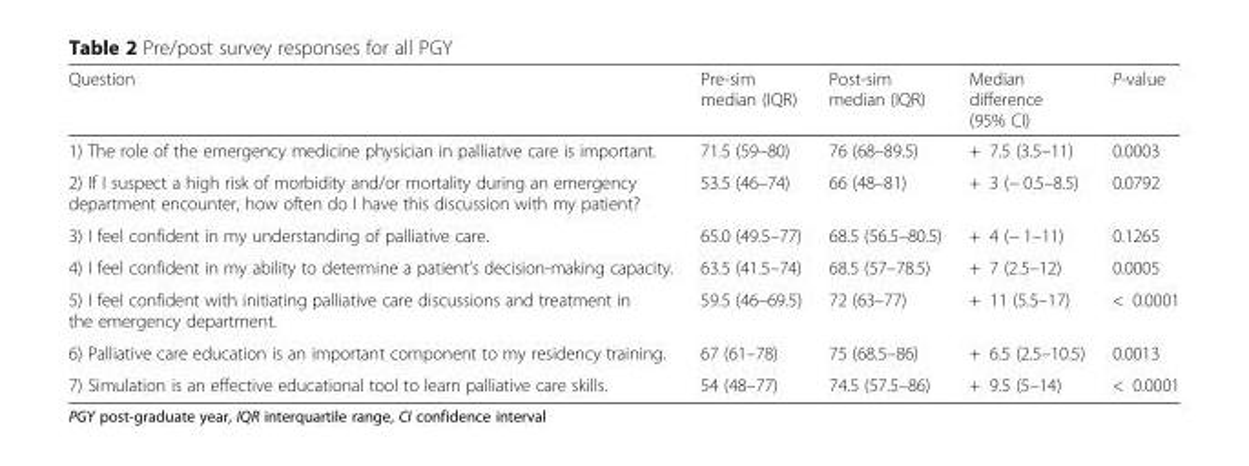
<table><thead><tr><td>Question</td><td>Pre-sim median (IQR)</td><td>Post-sim median (IQR)</td><td>Median difference (95% CI)</td><td>P-value</td></tr></thead><tbody><tr><td>1) The role of the emergency medicine physician in palliative care is important.</td><td>71.5 (59–80)</td><td>76 (68–89.5)</td><td>+ 7.5 (3.5–11)</td><td>0.0003</td></tr><tr><td>2) If I suspect a high risk of morbidity and/or mortality during an emergency department encounter, how often do I have this discussion with my patient?</td><td>53.5 (46–74)</td><td>66 (48–81)</td><td>+ 3 (− 0.5–8.5)</td><td>0.0792</td></tr><tr><td>3) I feel confident in my understanding of palliative care.</td><td>65.0 (49.5–77)</td><td>68.5 (56.5–80.5)</td><td>+ 4 (− 1–11)</td><td>0.1265</td></tr><tr><td>4) I feel confident in my ability to determine a patient’s decision-making capacity.</td><td>63.5 (41.5–74)</td><td>68.5 (57–78.5)</td><td>+ 7 (2.5–12)</td><td>0.0005</td></tr><tr><td>5) I feel confident with initiating palliative care discussions and treatment in the emergency department.</td><td>59.5 (46–69.5)</td><td>72 (63–77)</td><td>+ 11 (5.5–17)</td><td>&lt; 0.0001</td></tr><tr><td>6) Palliative care education is an important component to my residency training.</td><td>67 (61–78)</td><td>75 (68.5–86)</td><td>+ 6.5 (2.5–10.5)</td><td>0.0013</td></tr><tr><td>7) Simulation is an effective educational tool to learn palliative care skills.</td><td>54 (48–77)</td><td>74.5 (57.5–86)</td><td>+ 9.5 (5–14)</td><td>&lt; 0.0001</td></tr></tbody></table>